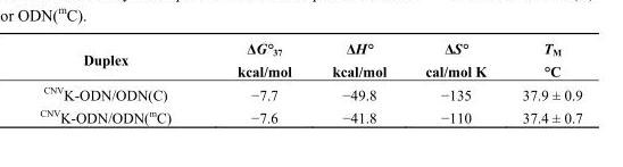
<table><thead><tr><td>Duplex</td><td>ΔG°<sub>37</sub> kcal/mol</td><td>ΔH° kcal/mol</td><td>ΔS° cal/mol K</td><td>T<sub>M</sub> °C</td></tr></thead><tbody><tr><td><sup>CNV</sup>K-ODN/ODN(C)</td><td>−7.7</td><td>−49.8</td><td>−135</td><td>37.9 ± 0.9</td></tr><tr><td><sup>CNV</sup>K-ODN/ODN(<sup>m</sup>C)</td><td>−7.6</td><td>−41.8</td><td>−110</td><td>37.4 ± 0.7</td></tr></tbody></table>